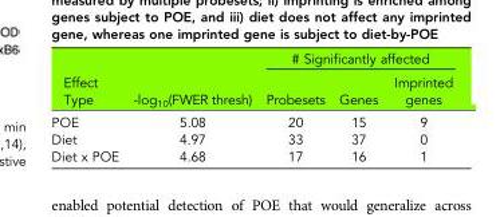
<table><thead><tr><td rowspan="2">Effect Type</td><td rowspan="2">-log<sub>10</sub>(FWER thresh)</td><td colspan="3"># Significantly affected</td></tr><tr><td>Probesets</td><td>Genes</td><td>Imprinted genes</td></tr></thead><tbody><tr><td>POE</td><td>5.08</td><td>20</td><td>15</td><td>9</td></tr><tr><td>Diet</td><td>4.97</td><td>33</td><td>37</td><td>0</td></tr><tr><td>Diet x POE</td><td>4.68</td><td>17</td><td>16</td><td>1</td></tr></tbody></table>